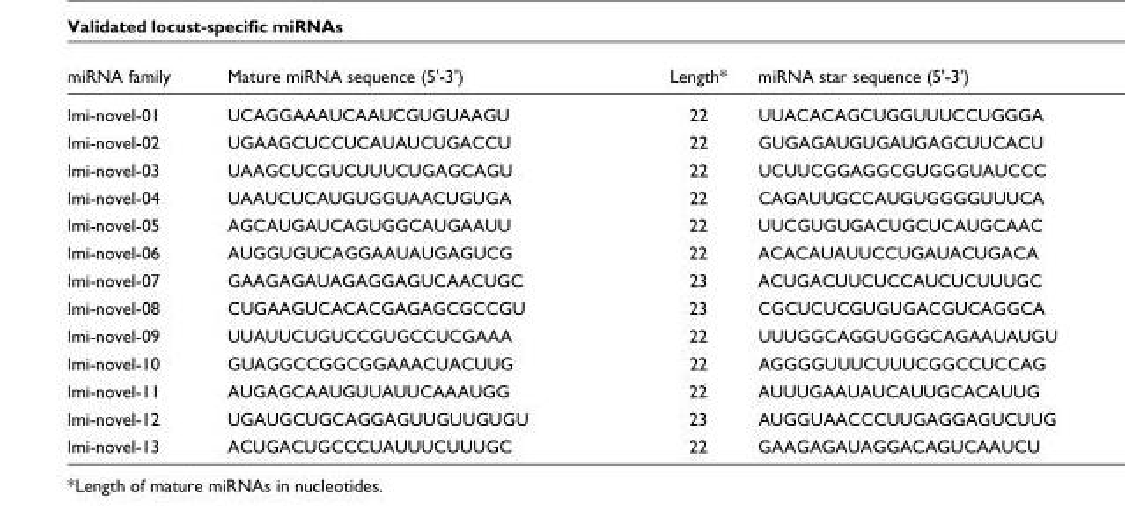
<table><thead><tr><td>miRNA family</td><td>Mature miRNA sequence (5&#x27;-3&#x27;)</td><td>Length*</td><td>miRNA star sequence (5&#x27;-3&#x27;)</td></tr></thead><tbody><tr><td>lmi-novel-01</td><td>UCAGGAAAUCAAUCGUGUAAGU</td><td>22</td><td>UUACACAGCUGGUUUCCUGGGA</td></tr><tr><td>lmi-novel-02</td><td>UGAAGCUCCUCAUAUCUGACCU</td><td>22</td><td>GUGAGAUGUGAUGAGCUUCACU</td></tr><tr><td>lmi-novel-03</td><td>UAAGCUCGUCUUUCUGAGCAGU</td><td>22</td><td>UCUUCGGAGGCGUGGGUAUCCC</td></tr><tr><td>lmi-novel-04</td><td>UAAUCUCAUGUGGUAACUGUGA</td><td>22</td><td>CAGAUUGCCAUGUGGGGUUUCA</td></tr><tr><td>lmi-novel-05</td><td>AGCAUGAUCAGUGGCAUGAAUU</td><td>22</td><td>UUCGUGUGACUGCUCAUGCAAC</td></tr><tr><td>lmi-novel-06</td><td>AUGGUGUCAGGAAUAUGAGUCG</td><td>22</td><td>ACACAUAUUCCUGAUACUGACA</td></tr><tr><td>lmi-novel-07</td><td>GAAGAGAUAGAGGAGUCAACUGC</td><td>23</td><td>ACUGACUUCUCCAUCUCUUUGC</td></tr><tr><td>lmi-novel-08</td><td>CUGAAGUCACACGAGAGCGCCGU</td><td>23</td><td>CGCUCUCGUGUGACGUCAGGCA</td></tr><tr><td>lmi-novel-09</td><td>UUAUUCUGUCCGUGCCUCGAAA</td><td>22</td><td>UUUGGCAGGUGGGCAGAAUAUGU</td></tr><tr><td>lmi-novel-10</td><td>GUAGGCCGGCGGAAACUACUUG</td><td>22</td><td>AGGGGUUUCUUUCGGCCUCCAG</td></tr><tr><td>lmi-novel-11</td><td>AUGAGCAAUGUUAUUCAAAUGG</td><td>22</td><td>AUUUGAAUAUCAUUGCACAUUG</td></tr><tr><td>lmi-novel-12</td><td>UGAUGCUGCAGGAGUUGUUGUGU</td><td>23</td><td>AUGGUAACCCUUGAGGAGUCUUG</td></tr><tr><td>lmi-novel-13</td><td>ACUGACUGCCCUAUUUCUUUGC</td><td>22</td><td>GAAGAGAUAGGACAGUCAAUCU</td></tr></tbody></table>